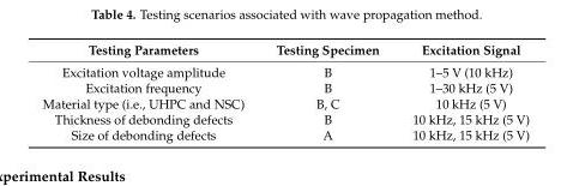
<table><thead><tr><td>Testing Parameters</td><td>Testing Specimen</td><td>Excitation Signal</td></tr></thead><tbody><tr><td>Excitation voltage amplitude</td><td>B</td><td>1–5 V (10 kHz)</td></tr><tr><td>Excitation frequency</td><td>B</td><td>1–30 kHz (5 V)</td></tr><tr><td>Material type (i.e., UHPC and NSC)</td><td>B, C</td><td>10 kHz (5 V)</td></tr><tr><td>Thickness of debonding defects</td><td>B</td><td>10 kHz, 15 kHz (5 V)</td></tr><tr><td>Size of debonding defects</td><td>A</td><td>10 kHz, 15 kHz (5 V)</td></tr></tbody></table>